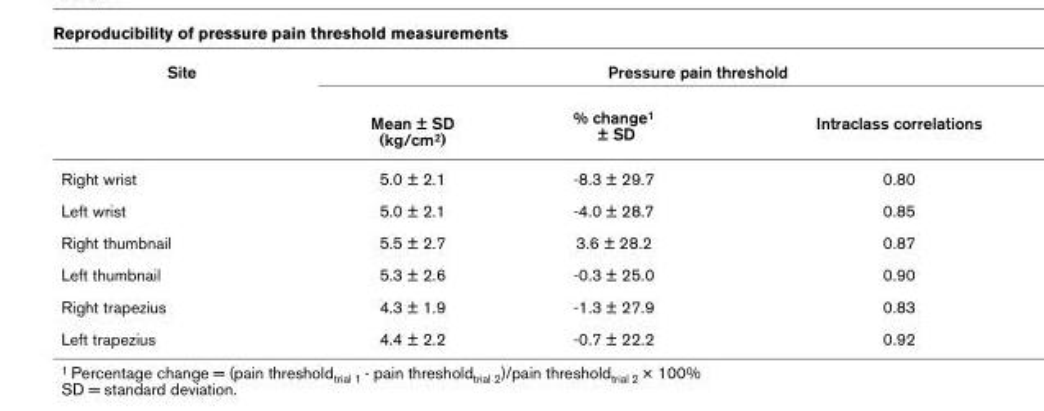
<table><thead><tr><td rowspan="2">Site</td><td colspan="3">Pressure pain threshold</td></tr><tr><td>Mean ± SD (kg/cm<sup>2</sup>)</td><td>% change<sup>1</sup> ± SD</td><td>Intraclass correlations</td></tr></thead><tbody><tr><td>Right wrist</td><td>5.0 ± 2.1</td><td>-8.3 ± 29.7</td><td>0.80</td></tr><tr><td>Left wrist</td><td>5.0 ± 2.1</td><td>-4.0 ± 28.7</td><td>0.85</td></tr><tr><td>Right thumbnail</td><td>5.5 ± 2.7</td><td>3.6 ± 28.2</td><td>0.87</td></tr><tr><td>Left thumbnail</td><td>5.3 ± 2.6</td><td>-0.3 ± 25.0</td><td>0.90</td></tr><tr><td>Right trapezius</td><td>4.3 ± 1.9</td><td>-1.3 ± 27.9</td><td>0.83</td></tr><tr><td>Left trapezius</td><td>4.4 ± 2.2</td><td>-0.7 ± 22.2</td><td>0.92</td></tr></tbody></table>